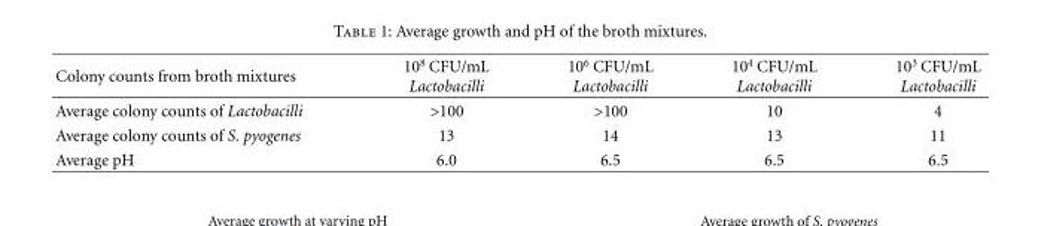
<table><thead><tr><td>Colony counts from broth mixtures</td><td>10<sup>8</sup> CFU/mL Lactobacilli</td><td>10<sup>6</sup> CFU/mL Lactobacilli</td><td>10<sup>4</sup> CFU/mL Lactobacilli</td><td>10<sup>3</sup> CFU/mL Lactobacilli</td></tr></thead><tbody><tr><td>Average colony counts of Lactobacilli</td><td>&gt;100</td><td>&gt;100</td><td>10</td><td>4</td></tr><tr><td>Average colony counts of S. pyogenes</td><td>13</td><td>14</td><td>13</td><td>11</td></tr><tr><td>Average pH</td><td>6.0</td><td>6.5</td><td>6.5</td><td>6.5</td></tr></tbody></table>